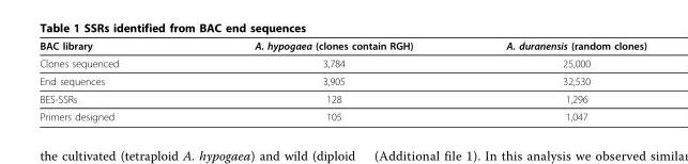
<table><thead><tr><td>BAC library</td><td>A. hypogaea (clones contain RGH)</td><td>A. duranensis (random clones)</td></tr></thead><tbody><tr><td>Clones sequenced</td><td>3,784</td><td>25,000</td></tr><tr><td>End sequences</td><td>3,905</td><td>32,530</td></tr><tr><td>BES-SSRs</td><td>128</td><td>1,296</td></tr><tr><td>Primers designed</td><td>105</td><td>1,047</td></tr></tbody></table>